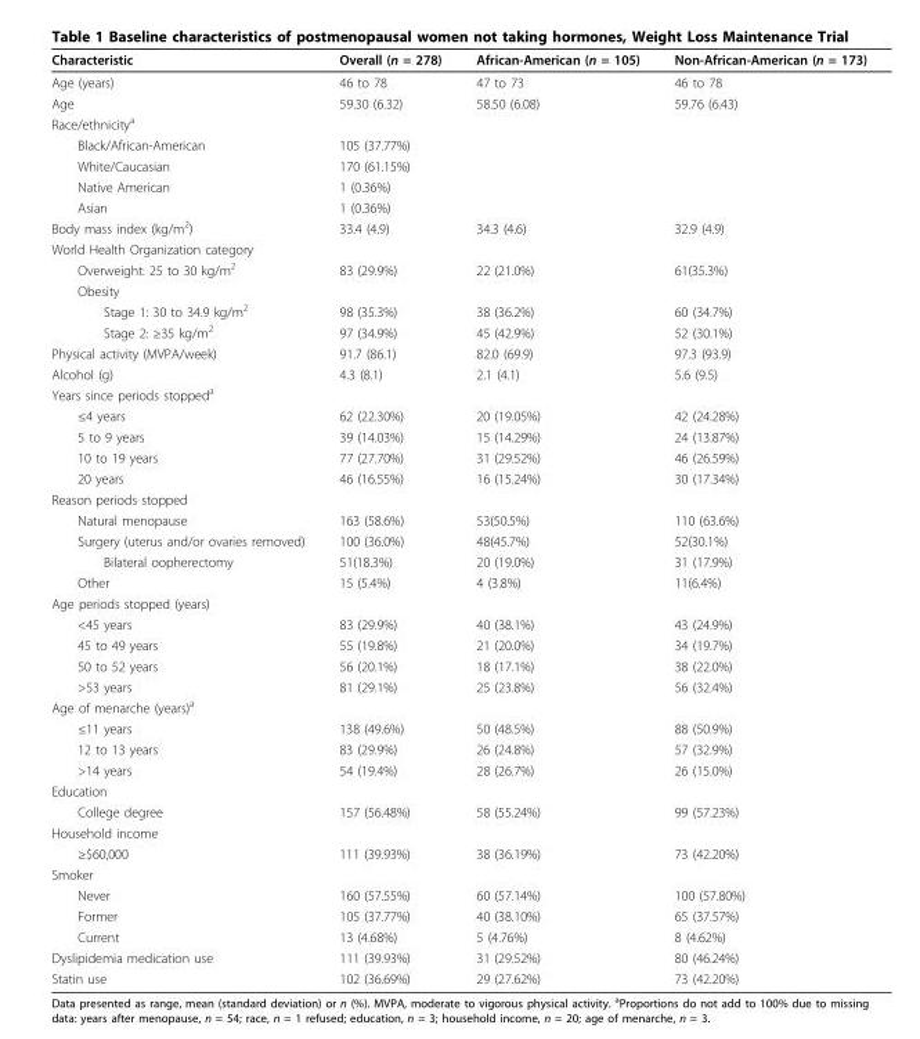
<table><thead><tr><td>Characteristic</td><td>Overall (n = 278)</td><td>African-American (n = 105)</td><td>Non-African-American (n = 173)</td></tr></thead><tbody><tr><td>Age (years)</td><td>46 to 78</td><td>47 to 73</td><td>46 to 78</td></tr><tr><td>Age</td><td>59.30 (6.32)</td><td>58.50 (6.08)</td><td>59.76 (6.43)</td></tr><tr><td colspan="4">Race/ethnicity<sup>a</sup></td></tr><tr><td>Black/African-American</td><td>105 (37.77%)</td><td></td><td></td></tr><tr><td>White/Caucasian</td><td>170 (61.15%)</td><td></td><td></td></tr><tr><td>Native American</td><td>1 (0.36%)</td><td></td><td></td></tr><tr><td>Asian</td><td>1 (0.36%)</td><td></td><td></td></tr><tr><td>Body mass index (kg/m<sup>2</sup>)</td><td>33.4 (4.9)</td><td>34.3 (4.6)</td><td>32.9 (4.9)</td></tr><tr><td colspan="4">World Health Organization category</td></tr><tr><td>Overweight: 25 to 30 kg/m<sup>2</sup></td><td>83 (29.9%)</td><td>22 (21.0%)</td><td>61(35.3%)</td></tr><tr><td colspan="4">Obesity</td></tr><tr><td>Stage 1: 30 to 34.9 kg/m<sup>2</sup></td><td>98 (35.3%)</td><td>38 (36.2%)</td><td>60 (34.7%)</td></tr><tr><td>Stage 2: ≥35 kg/m<sup>2</sup></td><td>97 (34.9%)</td><td>45 (42.9%)</td><td>52 (30.1%)</td></tr><tr><td>Physical activity (MVPA/week)</td><td>91.7 (86.1)</td><td>82.0 (69.9)</td><td>97.3 (93.9)</td></tr><tr><td>Alcohol (g)</td><td>4.3 (8.1)</td><td>2.1 (4.1)</td><td>5.6 (9.5)</td></tr><tr><td colspan="4">Years since periods stopped<sup>a</sup></td></tr><tr><td>≤4 years</td><td>62 (22.30%)</td><td>20 (19.05%)</td><td>42 (24.28%)</td></tr><tr><td>5 to 9 years</td><td>39 (14.03%)</td><td>15 (14.29%)</td><td>24 (13.87%)</td></tr><tr><td>10 to 19 years</td><td>77 (27.70%)</td><td>31 (29.52%)</td><td>46 (26.59%)</td></tr><tr><td>20 years</td><td>46 (16.55%)</td><td>16 (15.24%)</td><td>30 (17.34%)</td></tr><tr><td colspan="4">Reason periods stopped</td></tr><tr><td>Natural menopause</td><td>163 (58.6%)</td><td>53(50.5%)</td><td>110 (63.6%)</td></tr><tr><td>Surgery (uterus and/or ovaries removed)</td><td>100 (36.0%)</td><td>48(45.7%)</td><td>52(30.1%)</td></tr><tr><td>Bilateral oopherectomy</td><td>51(18.3%)</td><td>20 (19.0%)</td><td>31 (17.9%)</td></tr><tr><td>Other</td><td>15 (5.4%)</td><td>4 (3.8%)</td><td>11(6.4%)</td></tr><tr><td colspan="4">Age periods stopped (years)</td></tr><tr><td>&lt;45 years</td><td>83 (29.9%)</td><td>40 (38.1%)</td><td>43 (24.9%)</td></tr><tr><td>45 to 49 years</td><td>55 (19.8%)</td><td>21 (20.0%)</td><td>34 (19.7%)</td></tr><tr><td>50 to 52 years</td><td>56 (20.1%)</td><td>18 (17.1%)</td><td>38 (22.0%)</td></tr><tr><td>&gt;53 years</td><td>81 (29.1%)</td><td>25 (23.8%)</td><td>56 (32.4%)</td></tr><tr><td colspan="4">Age of menarche (years)<sup>a</sup></td></tr><tr><td>≤11 years</td><td>138 (49.6%)</td><td>50 (48.5%)</td><td>88 (50.9%)</td></tr><tr><td>12 to 13 years</td><td>83 (29.9%)</td><td>26 (24.8%)</td><td>57 (32.9%)</td></tr><tr><td>&gt;14 years</td><td>54 (19.4%)</td><td>28 (26.7%)</td><td>26 (15.0%)</td></tr><tr><td colspan="4">Education</td></tr><tr><td>College degree</td><td>157 (56.48%)</td><td>58 (55.24%)</td><td>99 (57.23%)</td></tr><tr><td colspan="4">Household income</td></tr><tr><td>≥$60,000</td><td>111 (39.93%)</td><td>38 (36.19%)</td><td>73 (42.20%)</td></tr><tr><td colspan="4">Smoker</td></tr><tr><td>Never</td><td>160 (57.55%)</td><td>60 (57.14%)</td><td>100 (57.80%)</td></tr><tr><td>Former</td><td>105 (37.77%)</td><td>40 (38.10%)</td><td>65 (37.57%)</td></tr><tr><td>Current</td><td>13 (4.68%)</td><td>5 (4.76%)</td><td>8 (4.62%)</td></tr><tr><td>Dyslipidemia medication use</td><td>111 (39.93%)</td><td>31 (29.52%)</td><td>80 (46.24%)</td></tr><tr><td>Statin use</td><td>102 (36.69%)</td><td>29 (27.62%)</td><td>73 (42.20%)</td></tr></tbody></table>